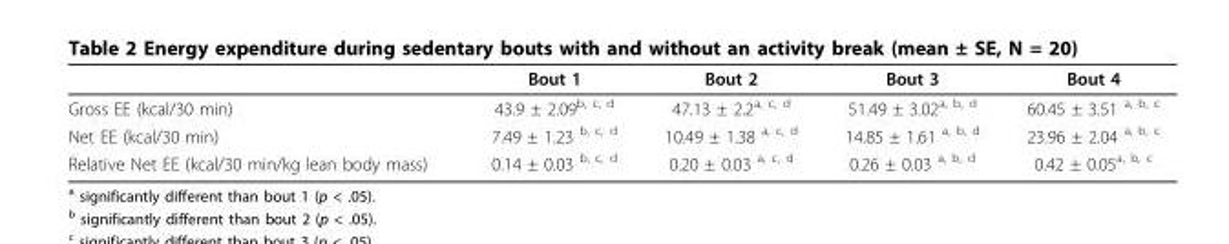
<table><thead><tr><td></td><td>Bout 1</td><td>Bout 2</td><td>Bout 3</td><td>Bout 4</td></tr></thead><tbody><tr><td>Gross EE (kcal/30 min)</td><td>43.9 ± 2.09<sup>b, c, d</sup></td><td>47.13 ± 2.2<sup>a, c, d</sup></td><td>51.49 ± 3.02<sup>a, b, d</sup></td><td>60.45 ± 3.51 <sup>a, b, c</sup></td></tr><tr><td>Net EE (kcal/30 min)</td><td>7.49 ± 1.23 <sup>b, c, d</sup></td><td>10.49 ± 1.38 <sup>a, c, d</sup></td><td>14.85 ± 1.61 <sup>a, b, d</sup></td><td>23.96 ± 2.04 <sup>a, b, c</sup></td></tr><tr><td>Relative Net EE (kcal/30 min/kg lean body mass)</td><td>0.14 ± 0.03 <sup>b, c, d</sup></td><td>0.20 ± 0.03 <sup>a, c, d</sup></td><td>0.26 ± 0.03 <sup>a, b, d</sup></td><td>0.42 ± 0.05<sup>a, b, c</sup></td></tr></tbody></table>